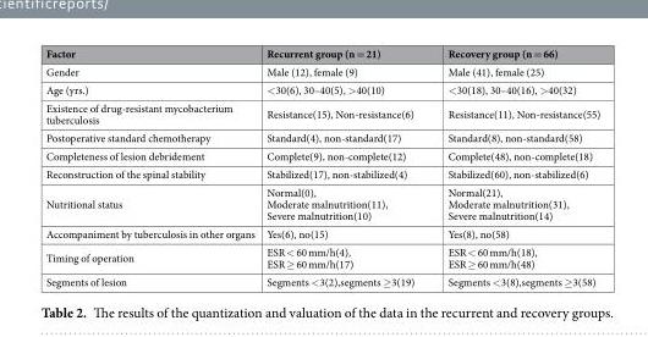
<table><thead><tr><td>Factor</td><td>Recurrent group (n = 21)</td><td>Recovery group (n = 66)</td></tr></thead><tbody><tr><td>Gender</td><td>Male (12), female (9)</td><td>Male (41), female (25)</td></tr><tr><td>Age (yrs.)</td><td>&lt;30(6), 30–40(5), &gt;40(10)</td><td>&lt;30(18), 30–40(16), &gt;40(32)</td></tr><tr><td>Existence of drug-resistant mycobacterium tuberculosis</td><td>Resistance(15), Non-resistance(6)</td><td>Resistance(11), Non-resistance(55)</td></tr><tr><td>Postoperative standard chemotherapy</td><td>Standard(4), non-standard(17)</td><td>Standard(8), non-standard(58)</td></tr><tr><td>Completeness of lesion debridement</td><td>Complete(9), non-complete(12)</td><td>Complete(48), non-complete(18)</td></tr><tr><td>Reconstruction of the spinal stability</td><td>Stabilized(17), non-stabilized(4)</td><td>Stabilized(60), non-stabilized(6)</td></tr><tr><td>Nutritional status</td><td>Normal(0), Moderate malnutrition(11), Severe malnutrition(10)</td><td>Normal(21), Moderate malnutrition(31), Severe malnutrition(14)</td></tr><tr><td>Accompaniment by tuberculosis in other organs</td><td>Yes(6), no(15)</td><td>Yes(8), no(58)</td></tr><tr><td>Timing of operation</td><td>ESR &lt; 60 mm/h(4), ESR ≥ 60 mm/h(17)</td><td>ESR &lt; 60 mm/h(18), ESR ≥ 60 mm/h(48)</td></tr><tr><td>Segments of lesion</td><td>Segments &lt;3(2),segments ≥3(19)</td><td>Segments &lt;3(8),segments ≥3(58)</td></tr></tbody></table>